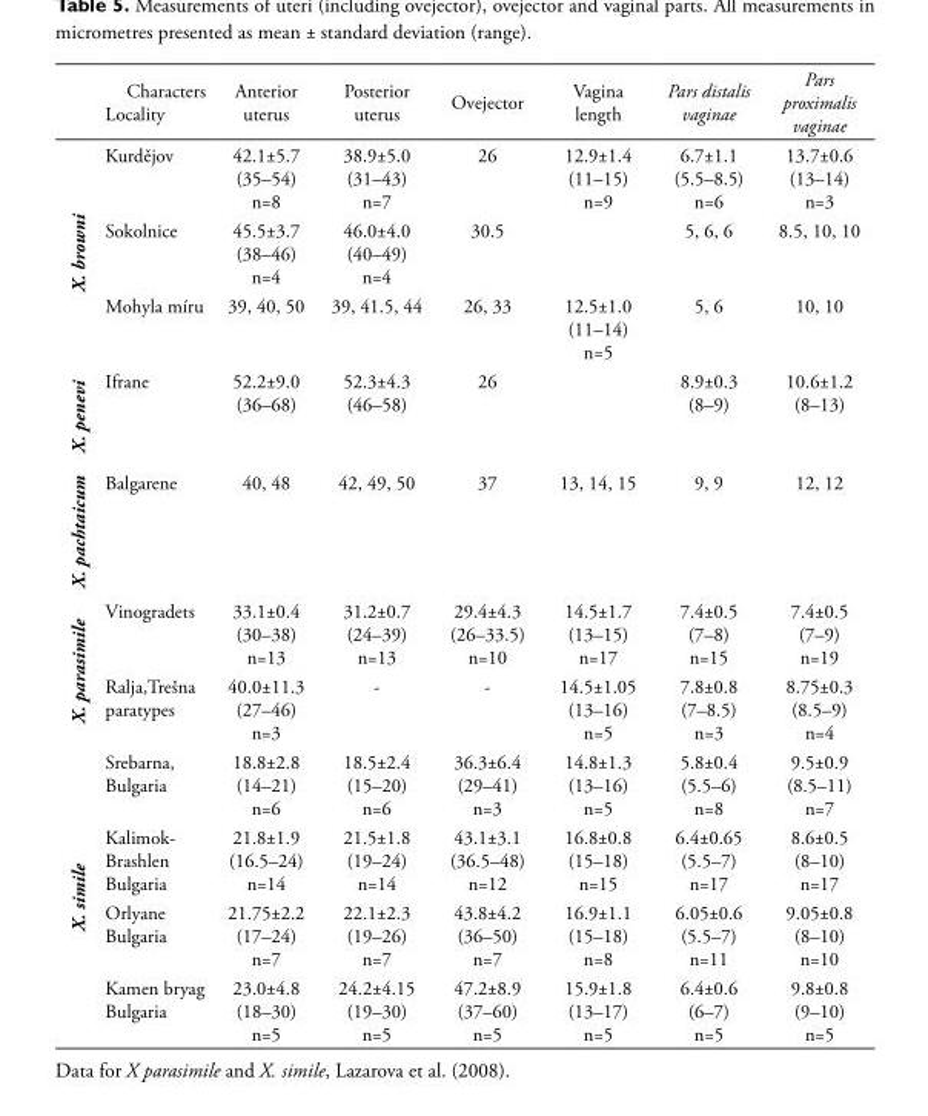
<table><thead><tr><td></td><td>Characters Locality</td><td>Anterior uterus</td><td>Posterior uterus</td><td>Ovejector</td><td>Vagina length</td><td>Pars distalis vaginae</td><td>Pars proximalis vaginae</td></tr></thead><tbody><tr><td rowspan="3">X. browni</td><td>Kurdějov</td><td>42.1±5.7 (35–54) n=8</td><td>38.9±5.0 (31–43) n=7</td><td>26</td><td>12.9±1.4 (11–15) n=9</td><td>6.7±1.1 (5.5–8.5) n=6</td><td>13.7±0.6 (13–14) n=3</td></tr><tr><td>Sokolnice</td><td>45.5±3.7 (38–46) n=4</td><td>46.0±4.0 (40–49) n=4</td><td>30.5</td><td></td><td>5, 6, 6</td><td>8.5, 10, 10</td></tr><tr><td>Mohyla míru</td><td>39, 40, 50</td><td>39, 41.5, 44</td><td>26, 33</td><td>12.5±1.0 (11–14) n=5</td><td>5, 6</td><td>10, 10</td></tr><tr><td>X. penevi</td><td>Ifrane</td><td>52.2±9.0 (36–68)</td><td>52.3±4.3 (46–58)</td><td>26</td><td></td><td>8.9±0.3 (8–9)</td><td>10.6±1.2 (8–13)</td></tr><tr><td>X. pachtaicum</td><td>Balgarene</td><td>40, 48</td><td>42, 49, 50</td><td>37</td><td>13, 14, 15</td><td>9, 9</td><td>12, 12</td></tr><tr><td rowspan="2">X. parasimile</td><td>Vinogradets</td><td>33.1±0.4 (30–38) n=13</td><td>31.2±0.7 (24–39) n=13</td><td>29.4±4.3 (26–33.5) n=10</td><td>14.5±1.7 (13–15) n=17</td><td>7.4±0.5 (7–8) n=15</td><td>7.4±0.5 (7–9) n=19</td></tr><tr><td>Ralja,Trešna paratypes</td><td>40.0±11.3 (27–46) n=3</td><td>-</td><td>-</td><td>14.5±1.05 (13–16) n=5</td><td>7.8±0.8 (7–8.5) n=3</td><td>8.75±0.3 (8.5–9) n=4</td></tr><tr><td rowspan="4">X. simile</td><td>Srebarna, Bulgaria</td><td>18.8±2.8 (14–21) n=6</td><td>18.5±2.4 (15–20) n=6</td><td>36.3±6.4 (29–41) n=3</td><td>14.8±1.3 (13–16) n=5</td><td>5.8±0.4 (5.5–6) n=8</td><td>9.5±0.9 (8.5–11) n=7</td></tr><tr><td>Kalimok- Brashlen Bulgaria</td><td>21.8±1.9 (16.5–24) n=14</td><td>21.5±1.8 (19–24) n=14</td><td>43.1±3.1 (36.5–48) n=12</td><td>16.8±0.8 (15–18) n=15</td><td>6.4±0.65 (5.5–7) n=17</td><td>8.6±0.5 (8–10) n=17</td></tr><tr><td>Orlyane Bulgaria</td><td>21.75±2.2 (17–24) n=7</td><td>22.1±2.3 (19–26) n=7</td><td>43.8±4.2 (36–50) n=7</td><td>16.9±1.1 (15–18) n=8</td><td>6.05±0.6 (5.5–7) n=11</td><td>9.05±0.8 (8–10) n=10</td></tr><tr><td>Kamen bryag Bulgaria</td><td>23.0±4.8 (18–30) n=5</td><td>24.2±4.15 (19–30) n=5</td><td>47.2±8.9 (37–60) n=5</td><td>15.9±1.8 (13–17) n=5</td><td>6.4±0.6 (6–7) n=5</td><td>9.8±0.8 (9–10) n=5</td></tr></tbody></table>